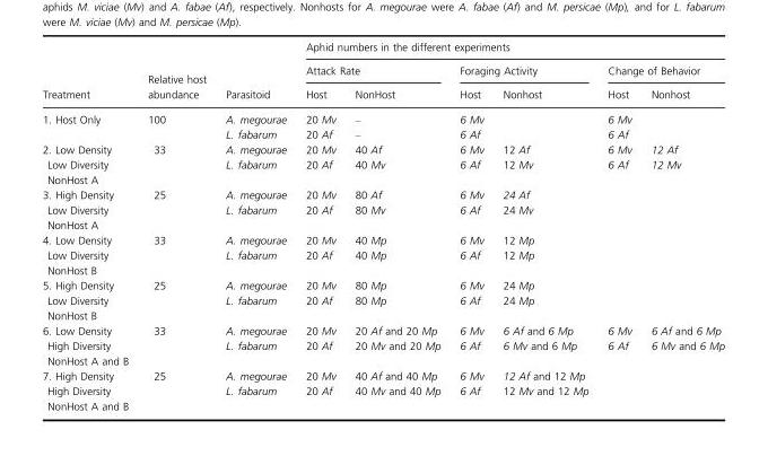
<table><thead><tr><td rowspan="3">Treatment</td><td rowspan="3">Relative host abundance</td><td rowspan="3">Parasitoid</td><td colspan="6">Aphid numbers in the different experiments</td></tr><tr><td colspan="2">Attack Rate</td><td colspan="2">Foraging Activity</td><td colspan="2">Change of Behavior</td></tr><tr><td>Host</td><td>NonHost</td><td>Host</td><td>Nonhost</td><td>Host</td><td>Nonhost</td></tr></thead><tbody><tr><td rowspan="2">1. Host Only</td><td rowspan="2">100</td><td>A. megourae</td><td>20 Mv</td><td>–</td><td>6 Mv</td><td></td><td>6 Mv</td><td></td></tr><tr><td>L. fabarum</td><td>20 Af</td><td>–</td><td>6 Af</td><td></td><td>6 Af</td><td></td></tr><tr><td rowspan="2">2. Low Density Low Diversity NonHost A</td><td rowspan="2">33</td><td>A. megourae</td><td>20 Mv</td><td>40 Af</td><td>6 Mv</td><td>12 Af</td><td>6 Mv</td><td>12 Af</td></tr><tr><td>L. fabarum</td><td>20 Af</td><td>40 Mv</td><td>6 Af</td><td>12 Mv</td><td>6 Af</td><td>12 Mv</td></tr><tr><td rowspan="2">3. High Density Low Diversity NonHost A</td><td rowspan="2">25</td><td>A. megourae</td><td>20 Mv</td><td>80 Af</td><td>6 Mv</td><td>24 Af</td><td></td><td></td></tr><tr><td>L. fabarum</td><td>20 Af</td><td>80 Mv</td><td>6 Af</td><td>24 Mv</td><td></td><td></td></tr><tr><td rowspan="2">4. Low Density Low Diversity NonHost B</td><td rowspan="2">33</td><td>A. megourae</td><td>20 Mv</td><td>40 Mp</td><td>6 Mv</td><td>12 Mp</td><td></td><td></td></tr><tr><td>L. fabarum</td><td>20 Af</td><td>40 Mp</td><td>6 Af</td><td>12 Mp</td><td></td><td></td></tr><tr><td rowspan="2">5. High Density Low Diversity NonHost B</td><td rowspan="2">25</td><td>A. megourae</td><td>20 Mv</td><td>80 Mp</td><td>6 Mv</td><td>24 Mp</td><td></td><td></td></tr><tr><td>L. fabarum</td><td>20 Af</td><td>80 Mp</td><td>6 Af</td><td>24 Mp</td><td></td><td></td></tr><tr><td rowspan="2">6. Low Density High Diversity NonHost A and B</td><td rowspan="2">33</td><td>A. megourae</td><td>20 Mv</td><td>20 Af and 20 Mp</td><td>6 Mv</td><td>6 Af and 6 Mp</td><td>6 Mv</td><td>6 Af and 6 Mp</td></tr><tr><td>L. fabarum</td><td>20 Af</td><td>20 Mv and 20 Mp</td><td>6 Af</td><td>6 Mv and 6 Mp</td><td>6 Af</td><td>6 Mv and 6 Mp</td></tr><tr><td rowspan="2">7. High Density High Diversity NonHost A and B</td><td rowspan="2">25</td><td>A. megourae</td><td>20 Mv</td><td>40 Af and 40 Mp</td><td>6 Mv</td><td>12 Af and 12 Mp</td><td></td><td></td></tr><tr><td>L. fabarum</td><td>20 Af</td><td>40 Mv and 40 Mp</td><td>6 Af</td><td>12 Mv and 12 Mp</td><td></td><td></td></tr></tbody></table>